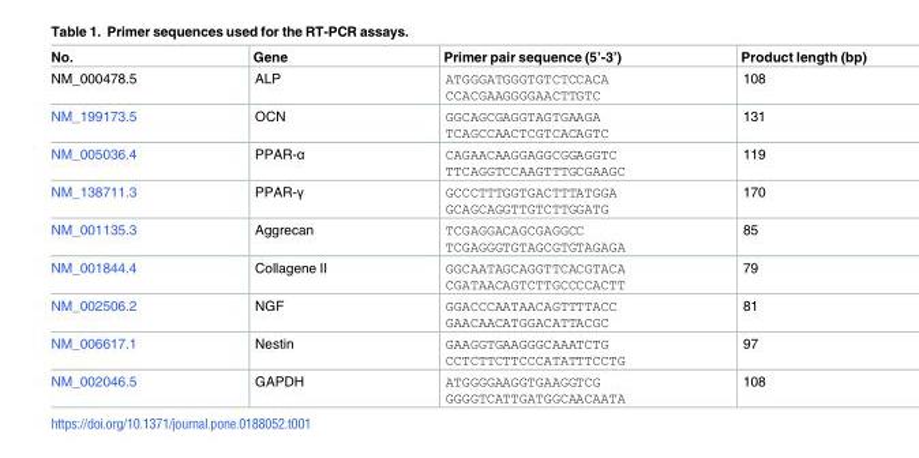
<table><thead><tr><td>No.</td><td>Gene</td><td>Primer pair sequence (5’-3’)</td><td>Product length (bp)</td></tr></thead><tbody><tr><td>NM_000478.5</td><td>ALP</td><td>ATGGGATGGGTGTCTCCACA CCACGAAGGGGAACTTGTC</td><td>108</td></tr><tr><td>NM_199173.5</td><td>OCN</td><td>GGCAGCGAGGTAGTGAAGA TCAGCCAACTCGTCACAGTC</td><td>131</td></tr><tr><td>NM_005036.4</td><td>PPAR-α</td><td>CAGAACAAGGAGGCGGAGGTC TTCAGGTCCAAGTTTGCGAAGC</td><td>119</td></tr><tr><td>NM_138711.3</td><td>PPAR-γ</td><td>GCCCTTTGGTGACTTTATGGA GCAGCAGGTTGTCTTGGATG</td><td>170</td></tr><tr><td>NM_001135.3</td><td>Aggrecan</td><td>TCGAGGACAGCGAGGCC TCGAGGGTGTAGCGTGTAGAGA</td><td>85</td></tr><tr><td>NM_001844.4</td><td>Collagene II</td><td>GGCAATAGCAGGTTCACGTACA CGATAACAGTCTTGCCCCACTT</td><td>79</td></tr><tr><td>NM_002506.2</td><td>NGF</td><td>GGACCCAATAACAGTTTTACC GAACAACATGGACATTACGC</td><td>81</td></tr><tr><td>NM_006617.1</td><td>Nestin</td><td>GAAGGTGAAGGGCAAATCTG CCTCTTCTTCCCATATTTCCTG</td><td>97</td></tr><tr><td>NM_002046.5</td><td>GAPDH</td><td>ATGGGGAAGGTGAAGGTCG GGGGTCATTGATGGCAACAATA</td><td>108</td></tr></tbody></table>